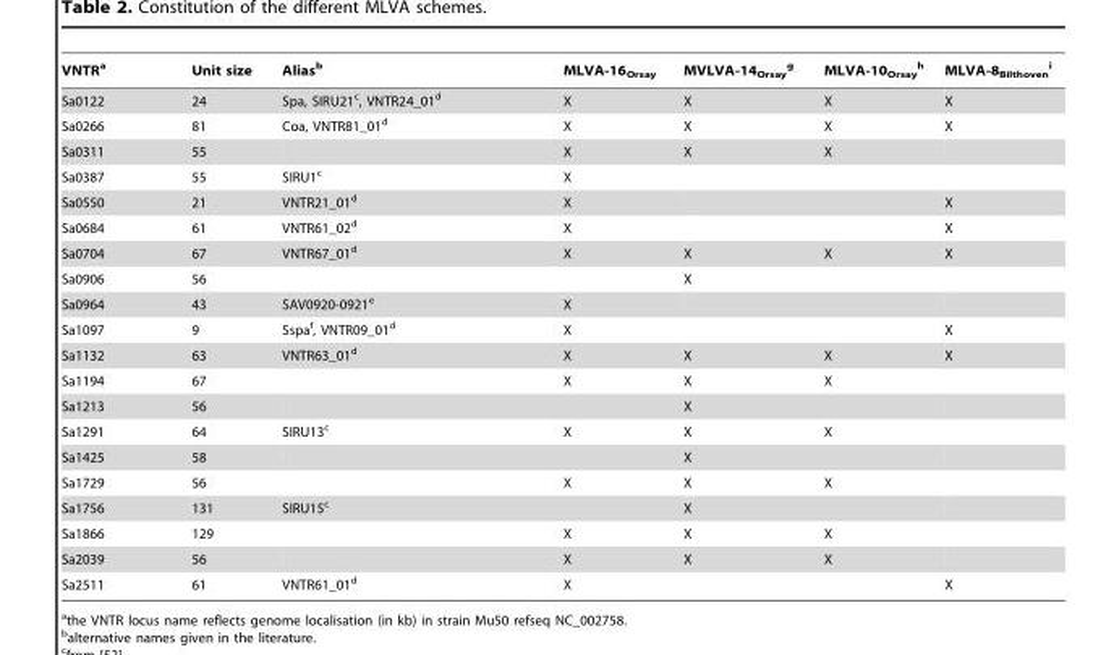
<table><thead><tr><td>VNTR<sup>a</sup></td><td>Unit size</td><td>Alias<sup>b</sup></td><td>MLVA-16<sub>Orsay</sub></td><td>MVLVA-14<sub>Orsay</sub> g</td><td>MLVA-10<sub>Orsay</sub> h</td><td>MLVA-8<sub>Bilthoven</sub> i</td></tr></thead><tbody><tr><td>Sa0122</td><td>24</td><td>Spa, SIRU21<sup>c</sup>, VNTR24_01<sup>d</sup></td><td>X</td><td>X</td><td>X</td><td>X</td></tr><tr><td>Sa0266</td><td>81</td><td>Coa, VNTR81_01<sup>d</sup></td><td>X</td><td>X</td><td>X</td><td>X</td></tr><tr><td>Sa0311</td><td>55</td><td></td><td>X</td><td>X</td><td>X</td><td></td></tr><tr><td>Sa0387</td><td>55</td><td>SIRU1<sup>c</sup></td><td>X</td><td></td><td></td><td></td></tr><tr><td>Sa0550</td><td>21</td><td>VNTR21_01<sup>d</sup></td><td>X</td><td></td><td></td><td>X</td></tr><tr><td>Sa0684</td><td>61</td><td>VNTR61_02<sup>d</sup></td><td>X</td><td></td><td></td><td>X</td></tr><tr><td>Sa0704</td><td>67</td><td>VNTR67_01<sup>d</sup></td><td>X</td><td>X</td><td>X</td><td>X</td></tr><tr><td>Sa0906</td><td>56</td><td></td><td></td><td>X</td><td></td><td></td></tr><tr><td>Sa0964</td><td>43</td><td>SAV0920-0921<sup>e</sup></td><td>X</td><td></td><td></td><td></td></tr><tr><td>Sa1097</td><td>9</td><td>Sspa<sup>f</sup>, VNTR09_01<sup>d</sup></td><td>X</td><td></td><td></td><td>X</td></tr><tr><td>Sa1132</td><td>63</td><td>VNTR63_01<sup>d</sup></td><td>X</td><td>X</td><td>X</td><td>X</td></tr><tr><td>Sa1194</td><td>67</td><td></td><td>X</td><td>X</td><td>X</td><td></td></tr><tr><td>Sa1213</td><td>56</td><td></td><td></td><td>X</td><td></td><td></td></tr><tr><td>Sa1291</td><td>64</td><td>SIRU13<sup>c</sup></td><td>X</td><td>X</td><td>X</td><td></td></tr><tr><td>Sa1425</td><td>58</td><td></td><td></td><td>X</td><td></td><td></td></tr><tr><td>Sa1729</td><td>56</td><td></td><td>X</td><td>X</td><td>X</td><td></td></tr><tr><td>Sa1756</td><td>131</td><td>SIRU15<sup>c</sup></td><td></td><td>X</td><td></td><td></td></tr><tr><td>Sa1866</td><td>129</td><td></td><td>X</td><td>X</td><td>X</td><td></td></tr><tr><td>Sa2039</td><td>56</td><td></td><td>X</td><td>X</td><td>X</td><td></td></tr><tr><td>Sa2511</td><td>61</td><td>VNTR61_01<sup>d</sup></td><td>X</td><td></td><td></td><td>X</td></tr></tbody></table>